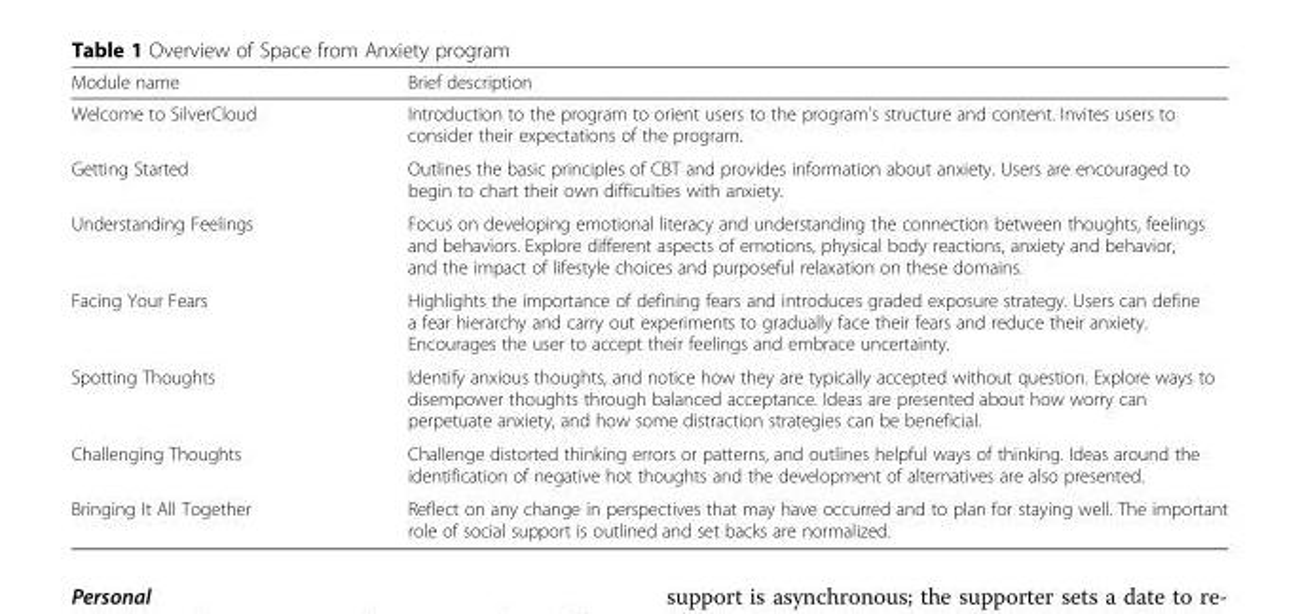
<table><thead><tr><td>Module name</td><td>Brief description</td></tr></thead><tbody><tr><td>Welcome to SilverCloud</td><td>Introduction to the program to orient users to the program’s structure and content. Invites users to consider their expectations of the program.</td></tr><tr><td>Getting Started</td><td>Outlines the basic principles of CBT and provides information about anxiety. Users are encouraged to begin to chart their own difficulties with anxiety.</td></tr><tr><td>Understanding Feelings</td><td>Focus on developing emotional literacy and understanding the connection between thoughts, feelings and behaviors. Explore different aspects of emotions, physical body reactions, anxiety and behavior, and the impact of lifestyle choices and purposeful relaxation on these domains.</td></tr><tr><td>Facing Your Fears</td><td>Highlights the importance of defining fears and introduces graded exposure strategy. Users can define a fear hierarchy and carry out experiments to gradually face their fears and reduce their anxiety. Encourages the user to accept their feelings and embrace uncertainty.</td></tr><tr><td>Spotting Thoughts</td><td>Identify anxious thoughts, and notice how they are typically accepted without question. Explore ways to disempower thoughts through balanced acceptance. Ideas are presented about how worry can perpetuate anxiety, and how some distraction strategies can be beneficial.</td></tr><tr><td>Challenging Thoughts</td><td>Challenge distorted thinking errors or patterns, and outlines helpful ways of thinking. Ideas around the identification of negative hot thoughts and the development of alternatives are also presented.</td></tr><tr><td>Bringing It All Together</td><td>Reflect on any change in perspectives that may have occurred and to plan for staying well. The important role of social support is outlined and set backs are normalized.</td></tr></tbody></table>